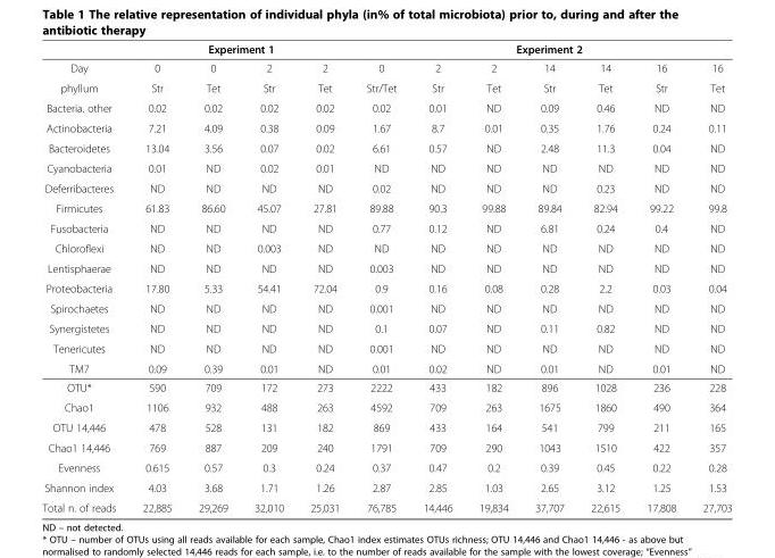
<table><thead><tr><td rowspan="2">Day</td><td colspan="4">Experiment 1</td><td colspan="7">Experiment 2</td></tr><tr><td>0</td><td>0</td><td>2</td><td>2</td><td>0</td><td>2</td><td>2</td><td>14</td><td>14</td><td>16</td><td>16</td></tr></thead><tbody><tr><td>phyllum</td><td>Str</td><td>Tet</td><td>Str</td><td>Tet</td><td>Str/Tet</td><td>Str</td><td>Tet</td><td>Str</td><td>Tet</td><td>Str</td><td>Tet</td></tr><tr><td>Bacteria. other</td><td>0.02</td><td>0.02</td><td>0.02</td><td>0.02</td><td>0.02</td><td>0.01</td><td>ND</td><td>0.09</td><td>0.46</td><td>ND</td><td>ND</td></tr><tr><td>Actinobacteria</td><td>7.21</td><td>4.09</td><td>0.38</td><td>0.09</td><td>1.67</td><td>8.7</td><td>0.01</td><td>0.35</td><td>1.76</td><td>0.24</td><td>0.11</td></tr><tr><td>Bacteroidetes</td><td>13.04</td><td>3.56</td><td>0.07</td><td>0.02</td><td>6.61</td><td>0.57</td><td>ND</td><td>2.48</td><td>11.3</td><td>0.04</td><td>ND</td></tr><tr><td>Cyanobacteria</td><td>0.01</td><td>ND</td><td>0.02</td><td>0.01</td><td>ND</td><td>ND</td><td>ND</td><td>ND</td><td>ND</td><td>ND</td><td>ND</td></tr><tr><td>Deferribacteres</td><td>ND</td><td>ND</td><td>ND</td><td>ND</td><td>0.02</td><td>ND</td><td>ND</td><td>ND</td><td>0.23</td><td>ND</td><td>ND</td></tr><tr><td>Firmicutes</td><td>61.83</td><td>86.60</td><td>45.07</td><td>27.81</td><td>89.88</td><td>90.3</td><td>99.88</td><td>89.84</td><td>82.94</td><td>99.22</td><td>99.8</td></tr><tr><td>Fusobacteria</td><td>ND</td><td>ND</td><td>ND</td><td>ND</td><td>0.77</td><td>0.12</td><td>ND</td><td>6.81</td><td>0.24</td><td>0.4</td><td>ND</td></tr><tr><td>Chloroflexi</td><td>ND</td><td>ND</td><td>0.003</td><td>ND</td><td>ND</td><td>ND</td><td>ND</td><td>ND</td><td>ND</td><td>ND</td><td>ND</td></tr><tr><td>Lentisphaerae</td><td>ND</td><td>ND</td><td>ND</td><td>ND</td><td>0.003</td><td>ND</td><td>ND</td><td>ND</td><td>ND</td><td>ND</td><td>ND</td></tr><tr><td>Proteobacteria</td><td>17.80</td><td>5.33</td><td>54.41</td><td>72.04</td><td>0.9</td><td>0.16</td><td>0.08</td><td>0.28</td><td>2.2</td><td>0.03</td><td>0.04</td></tr><tr><td>Spirochaetes</td><td>ND</td><td>ND</td><td>ND</td><td>ND</td><td>0.001</td><td>ND</td><td>ND</td><td>ND</td><td>ND</td><td>ND</td><td>ND</td></tr><tr><td>Synergistetes</td><td>ND</td><td>ND</td><td>ND</td><td>ND</td><td>0.1</td><td>0.07</td><td>ND</td><td>0.11</td><td>0.82</td><td>ND</td><td>ND</td></tr><tr><td>Tenericutes</td><td>ND</td><td>ND</td><td>ND</td><td>ND</td><td>0.001</td><td>ND</td><td>ND</td><td>ND</td><td>ND</td><td>ND</td><td>ND</td></tr><tr><td>TM7</td><td>0.09</td><td>0.39</td><td>0.01</td><td>ND</td><td>0.01</td><td>0.02</td><td>ND</td><td>0.01</td><td>ND</td><td>0.01</td><td>ND</td></tr><tr><td>OTU*</td><td>590</td><td>709</td><td>172</td><td>273</td><td>2222</td><td>433</td><td>182</td><td>896</td><td>1028</td><td>236</td><td>228</td></tr><tr><td>Chao1</td><td>1106</td><td>932</td><td>488</td><td>263</td><td>4592</td><td>709</td><td>263</td><td>1675</td><td>1860</td><td>490</td><td>364</td></tr><tr><td>OTU 14,446</td><td>478</td><td>528</td><td>131</td><td>182</td><td>869</td><td>433</td><td>164</td><td>541</td><td>799</td><td>211</td><td>165</td></tr><tr><td>Chao1 14,446</td><td>769</td><td>887</td><td>209</td><td>240</td><td>1791</td><td>709</td><td>290</td><td>1043</td><td>1510</td><td>422</td><td>357</td></tr><tr><td>Evenness</td><td>0.615</td><td>0.57</td><td>0.3</td><td>0.24</td><td>0.37</td><td>0.47</td><td>0.2</td><td>0.39</td><td>0.45</td><td>0.22</td><td>0.28</td></tr><tr><td>Shannon index</td><td>4.03</td><td>3.68</td><td>1.71</td><td>1.26</td><td>2.87</td><td>2.85</td><td>1.03</td><td>2.65</td><td>3.12</td><td>1.25</td><td>1.53</td></tr><tr><td>Total n. of reads</td><td>22,885</td><td>29,269</td><td>32,010</td><td>25,031</td><td>76,785</td><td>14,446</td><td>19,834</td><td>37,707</td><td>22,615</td><td>17,808</td><td>27,703</td></tr></tbody></table>